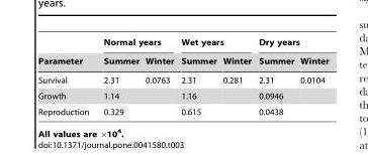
<table><thead><tr><td rowspan="2">Parameter</td><td colspan="2">Normal years</td><td colspan="2">Wet years</td><td colspan="2">Dry years</td></tr><tr><td>Summer</td><td>Winter</td><td>Summer</td><td>Winter</td><td>Summer</td><td>Winter</td></tr></thead><tbody><tr><td>Survival</td><td>2.31</td><td>0.0763</td><td>2.31</td><td>0.281</td><td>2.31</td><td>0.0104</td></tr><tr><td>Growth</td><td>1.14</td><td></td><td>1.16</td><td></td><td>0.0946</td><td></td></tr><tr><td>Reproduction</td><td>0.329</td><td></td><td>0.615</td><td></td><td>0.0438</td><td></td></tr></tbody></table>